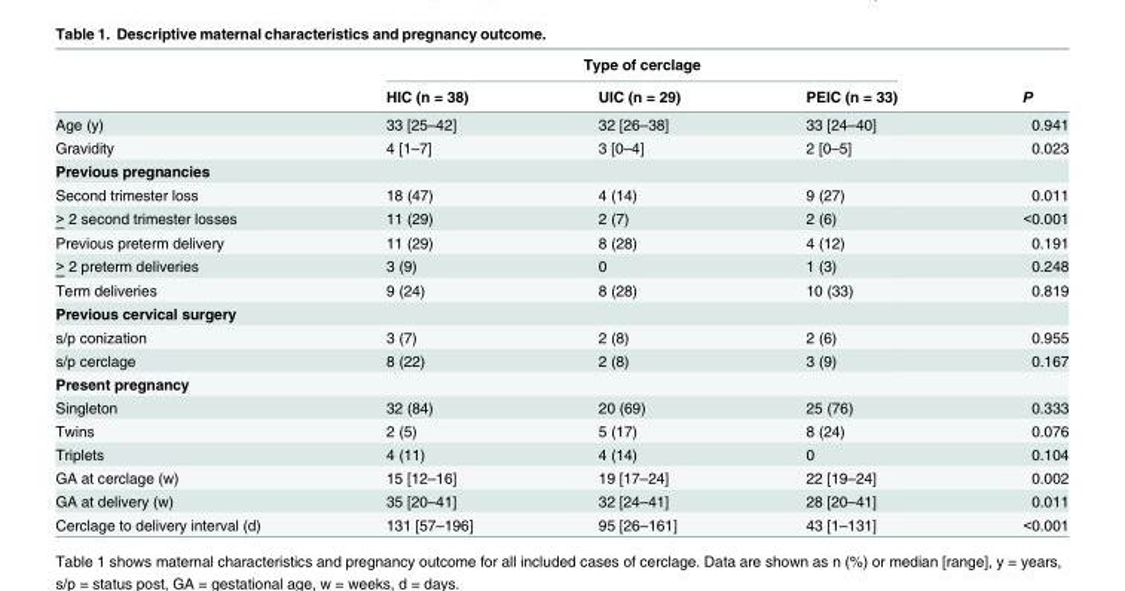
<table><thead><tr><td rowspan="2"></td><td colspan="3">Type of cerclage</td><td rowspan="2">P</td></tr><tr><td>HIC (n = 38)</td><td>UIC (n = 29)</td><td>PEIC (n = 33)</td></tr></thead><tbody><tr><td>Age (y)</td><td>33 [25–42]</td><td>32 [26–38]</td><td>33 [24–40]</td><td>0.941</td></tr><tr><td>Gravidity</td><td>4 [1–7]</td><td>3 [0–4]</td><td>2 [0–5]</td><td>0.023</td></tr><tr><td colspan="5">Previous pregnancies</td></tr><tr><td>Second trimester loss</td><td>18 (47)</td><td>4 (14)</td><td>9 (27)</td><td>0.011</td></tr><tr><td>&gt; 2 second trimester losses</td><td>11 (29)</td><td>2 (7)</td><td>2 (6)</td><td>&lt;0.001</td></tr><tr><td>Previous preterm delivery</td><td>11 (29)</td><td>8 (28)</td><td>4 (12)</td><td>0.191</td></tr><tr><td>&gt; 2 preterm deliveries</td><td>3 (9)</td><td>0</td><td>1 (3)</td><td>0.248</td></tr><tr><td>Term deliveries</td><td>9 (24)</td><td>8 (28)</td><td>10 (33)</td><td>0.819</td></tr><tr><td colspan="5">Previous cervical surgery</td></tr><tr><td>s/p conization</td><td>3 (7)</td><td>2 (8)</td><td>2 (6)</td><td>0.955</td></tr><tr><td>s/p cerclage</td><td>8 (22)</td><td>2 (8)</td><td>3 (9)</td><td>0.167</td></tr><tr><td colspan="5">Present pregnancy</td></tr><tr><td>Singleton</td><td>32 (84)</td><td>20 (69)</td><td>25 (76)</td><td>0.333</td></tr><tr><td>Twins</td><td>2 (5)</td><td>5 (17)</td><td>8 (24)</td><td>0.076</td></tr><tr><td>Triplets</td><td>4 (11)</td><td>4 (14)</td><td>0</td><td>0.104</td></tr><tr><td>GA at cerclage (w)</td><td>15 [12–16]</td><td>19 [17–24]</td><td>22 [19–24]</td><td>0.002</td></tr><tr><td>GA at delivery (w)</td><td>35 [20–41]</td><td>32 [24–41]</td><td>28 [20–41]</td><td>0.011</td></tr><tr><td>Cerclage to delivery interval (d)</td><td>131 [57–196]</td><td>95 [26–161]</td><td>43 [1–131]</td><td>&lt;0.001</td></tr></tbody></table>